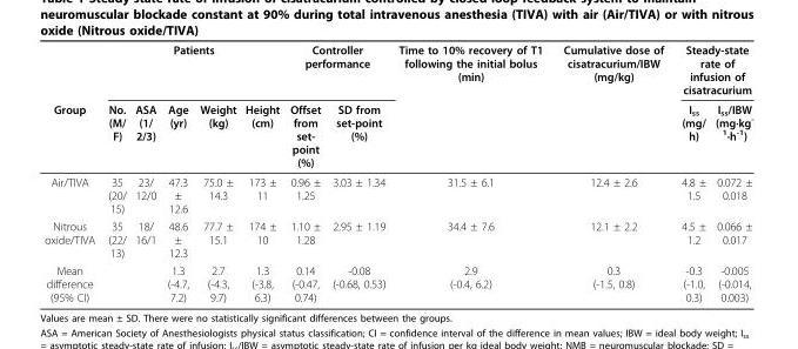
<table><thead><tr><td rowspan="2">Group</td><td colspan="5">Patients</td><td colspan="2">Controller performance</td><td rowspan="2">Time to 10% recovery of T1 following the initial bolus (min)</td><td rowspan="2">Cumulative dose of cisatracurium/IBW (mg/kg)</td><td colspan="2">Steady-state rate of infusion of cisatracurium</td></tr><tr><td>No. (M/ F)</td><td>ASA (1/ 2/3)</td><td>Age (yr)</td><td>Weight (kg)</td><td>Height (cm)</td><td>Offset from set- point (%)</td><td>SD from set-point (%)</td><td>I<sub>ss</sub> (mg/ h)</td><td>I<sub>ss</sub>/IBW (mg·kg<sup>- 1</sup>·h<sup>-1</sup>)</td></tr></thead><tbody><tr><td>Air/TIVA</td><td>35 (20/ 15)</td><td>23/ 12/0</td><td>47.3 ± 12.6</td><td>75.0 ± 14.3</td><td>173 ± 11</td><td>0.96 ± 1.25</td><td>3.03 ± 1.34</td><td>31.5 ± 6.1</td><td>12.4 ± 2.6</td><td>4.8 ± 1.5</td><td>0.072 ± 0.018</td></tr><tr><td>Nitrous oxide/TIVA</td><td>35 (22/ 13)</td><td>18/ 16/1</td><td>48.6 ± 12.3</td><td>77.7 ± 15.1</td><td>174 ± 10</td><td>1.10 ± 1.28</td><td>2.95 ± 1.19</td><td>34.4 ± 7.6</td><td>12.1 ± 2.2</td><td>4.5 ± 1.2</td><td>0.066 ± 0.017</td></tr><tr><td>Mean difference (95% CI)</td><td></td><td></td><td>1.3 (-4.7, 7.2)</td><td>2.7 (-4.3, 9.7)</td><td>1.3 (-3.8, 6.3)</td><td>0.14 (-0.47, 0.74)</td><td>-0.08 (-0.68, 0.53)</td><td>2.9 (-0.4, 6.2)</td><td>0.3 (-1.5, 0.8)</td><td>-0.3 (-1.0, 0.3)</td><td>-0.005 (-0.014, 0.003)</td></tr></tbody></table>